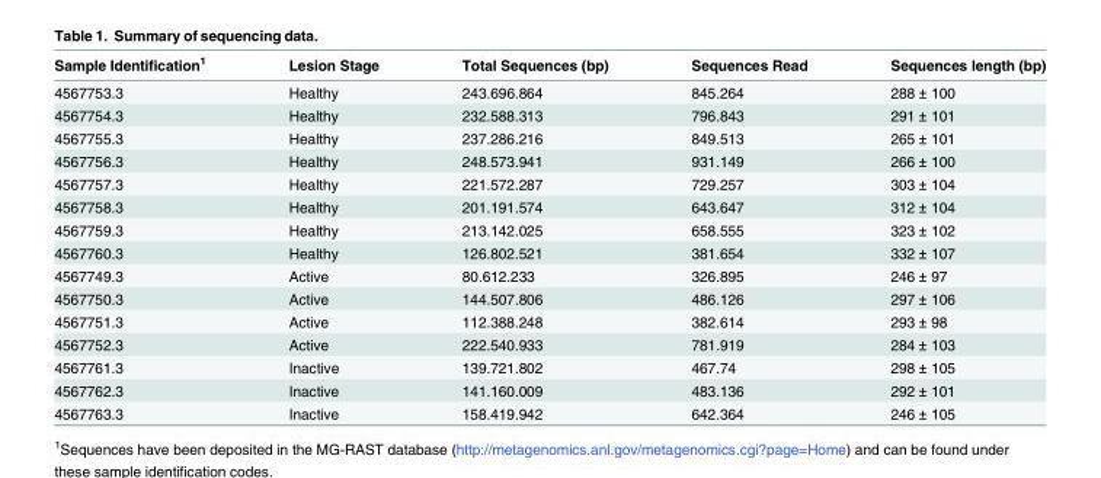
<table><thead><tr><td>Sample Identification<sup>1</sup></td><td>Lesion Stage</td><td>Total Sequences (bp)</td><td>Sequences Read</td><td>Sequences length (bp)</td></tr></thead><tbody><tr><td>4567753.3</td><td>Healthy</td><td>243.696.864</td><td>845.264</td><td>288 ± 100</td></tr><tr><td>4567754.3</td><td>Healthy</td><td>232.588.313</td><td>796.843</td><td>291 ± 101</td></tr><tr><td>4567755.3</td><td>Healthy</td><td>237.286.216</td><td>849.513</td><td>265 ± 101</td></tr><tr><td>4567756.3</td><td>Healthy</td><td>248.573.941</td><td>931.149</td><td>266 ± 100</td></tr><tr><td>4567757.3</td><td>Healthy</td><td>221.572.287</td><td>729.257</td><td>303 ± 104</td></tr><tr><td>4567758.3</td><td>Healthy</td><td>201.191.574</td><td>643.647</td><td>312 ± 104</td></tr><tr><td>4567759.3</td><td>Healthy</td><td>213.142.025</td><td>658.555</td><td>323 ± 102</td></tr><tr><td>4567760.3</td><td>Healthy</td><td>126.802.521</td><td>381.654</td><td>332 ± 107</td></tr><tr><td>4567749.3</td><td>Active</td><td>80.612.233</td><td>326.895</td><td>246 ± 97</td></tr><tr><td>4567750.3</td><td>Active</td><td>144.507.806</td><td>486.126</td><td>297 ± 106</td></tr><tr><td>4567751.3</td><td>Active</td><td>112.388.248</td><td>382.614</td><td>293 ± 98</td></tr><tr><td>4567752.3</td><td>Active</td><td>222.540.933</td><td>781.919</td><td>284 ± 103</td></tr><tr><td>4567761.3</td><td>Inactive</td><td>139.721.802</td><td>467.74</td><td>298 ± 105</td></tr><tr><td>4567762.3</td><td>Inactive</td><td>141.160.009</td><td>483.136</td><td>292 ± 101</td></tr><tr><td>4567763.3</td><td>Inactive</td><td>158.419.942</td><td>642.364</td><td>246 ± 105</td></tr></tbody></table>